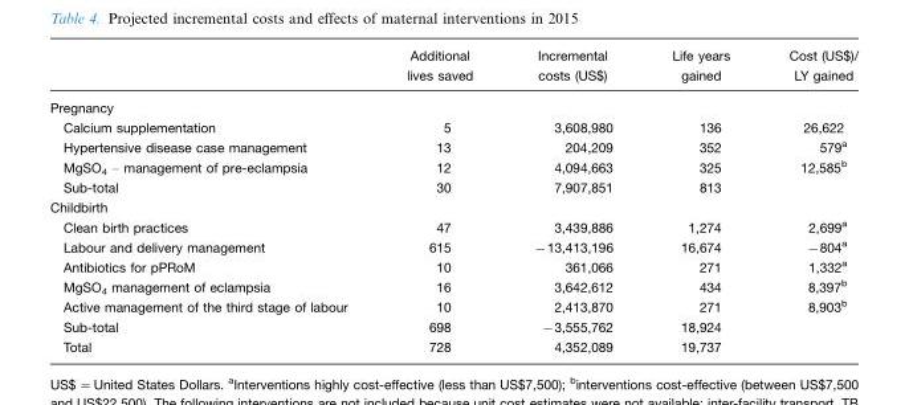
<table><thead><tr><td></td><td>Additional lives saved</td><td>Incremental costs (US$)</td><td>Life years gained</td><td>Cost (US$)/ LY gained</td></tr></thead><tbody><tr><td colspan="5">Pregnancy</td></tr><tr><td>Calcium supplementation</td><td>5</td><td>3,608,980</td><td>136</td><td>26,622</td></tr><tr><td>Hypertensive disease case management</td><td>13</td><td>204,209</td><td>352</td><td>579<sup>a</sup></td></tr><tr><td>MgSO<sub>4</sub> – management of pre-eclampsia</td><td>12</td><td>4,094,663</td><td>325</td><td>12,585<sup>b</sup></td></tr><tr><td>Sub-total</td><td>30</td><td>7,907,851</td><td>813</td><td></td></tr><tr><td colspan="5">Childbirth</td></tr><tr><td>Clean birth practices</td><td>47</td><td>3,439,886</td><td>1,274</td><td>2,699<sup>a</sup></td></tr><tr><td>Labour and delivery management</td><td>615</td><td>−13,413,196</td><td>16,674</td><td>−804<sup>a</sup></td></tr><tr><td>Antibiotics for pPRoM</td><td>10</td><td>361,066</td><td>271</td><td>1,332<sup>a</sup></td></tr><tr><td>MgSO<sub>4</sub> management of eclampsia</td><td>16</td><td>3,642,612</td><td>434</td><td>8,397<sup>b</sup></td></tr><tr><td>Active management of the third stage of labour</td><td>10</td><td>2,413,870</td><td>271</td><td>8,903<sup>b</sup></td></tr><tr><td>Sub-total</td><td>698</td><td>−3,555,762</td><td>18,924</td><td></td></tr><tr><td>Total</td><td>728</td><td>4,352,089</td><td>19,737</td><td></td></tr></tbody></table>